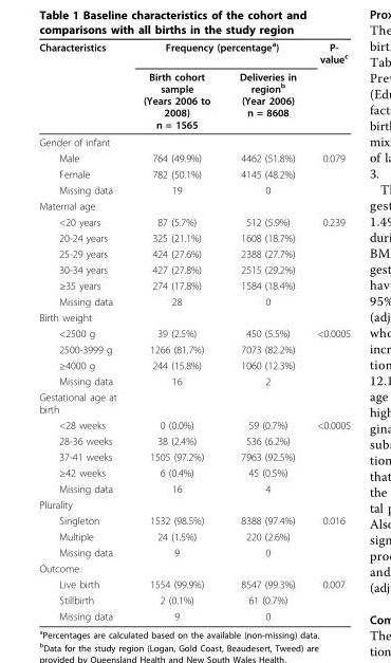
<table><thead><tr><td rowspan="2">Characteristics</td><td colspan="2">Frequency (percentage<sup>a</sup>)</td><td rowspan="2">P- value<sup>c</sup></td></tr><tr><td>Birth cohort sample (Years 2006 to 2008) n = 1565</td><td>Deliveries in region<sup>b</sup> (Year 2006) n = 8608</td></tr></thead><tbody><tr><td colspan="4">Gender of infant</td></tr><tr><td>Male</td><td>764 (49.9%)</td><td>4462 (51.8%)</td><td>0.079</td></tr><tr><td>Female</td><td>782 (50.1%)</td><td>4145 (48.2%)</td><td></td></tr><tr><td>Missing data</td><td>19</td><td>0</td><td></td></tr><tr><td colspan="4">Maternal age</td></tr><tr><td>&lt;20 years</td><td>87 (5.7%)</td><td>512 (5.9%)</td><td>0.239</td></tr><tr><td>20-24 years</td><td>325 (21.1%)</td><td>1608 (18.7%)</td><td></td></tr><tr><td>25-29 years</td><td>424 (27.6%)</td><td>2388 (27.7%)</td><td></td></tr><tr><td>30-34 years</td><td>427 (27.8%)</td><td>2515 (29.2%)</td><td></td></tr><tr><td>≥35 years</td><td>274 (17.8%)</td><td>1584 (18.4%)</td><td></td></tr><tr><td>Missing data</td><td>28</td><td>0</td><td></td></tr><tr><td colspan="4">Birth weight</td></tr><tr><td>&lt;2500 g</td><td>39 (2.5%)</td><td>450 (5.5%)</td><td>&lt;0.0005</td></tr><tr><td>2500-3999 g</td><td>1266 (81.7%)</td><td>7073 (82.2%)</td><td></td></tr><tr><td>≥4000 g</td><td>244 (15.8%)</td><td>1060 (12.3%)</td><td></td></tr><tr><td>Missing data</td><td>16</td><td>2</td><td></td></tr><tr><td colspan="4">Gestational age at birth</td></tr><tr><td>&lt;28 weeks</td><td>0 (0.0%)</td><td>59 (0.7%)</td><td>&lt;0.0005</td></tr><tr><td>28-36 weeks</td><td>38 (2.4%)</td><td>536 (6.2%)</td><td></td></tr><tr><td>37-41 weeks</td><td>1505 (97.2%)</td><td>7963 (92.5%)</td><td></td></tr><tr><td>≥42 weeks</td><td>6 (0.4%)</td><td>45 (0.5%)</td><td></td></tr><tr><td>Missing data</td><td>16</td><td>4</td><td></td></tr><tr><td colspan="4">Plurality</td></tr><tr><td>Singleton</td><td>1532 (98.5%)</td><td>8388 (97.4%)</td><td>0.016</td></tr><tr><td>Multiple</td><td>24 (1.5%)</td><td>220 (2.6%)</td><td></td></tr><tr><td>Missing data</td><td>9</td><td>0</td><td></td></tr><tr><td colspan="4">Outcome</td></tr><tr><td>Live birth</td><td>1554 (99.9%)</td><td>8547 (99.3%)</td><td>0.007</td></tr><tr><td>Stillbirth</td><td>2 (0.1%)</td><td>61 (0.7%)</td><td></td></tr><tr><td>Missing data</td><td>9</td><td>0</td><td></td></tr></tbody></table>